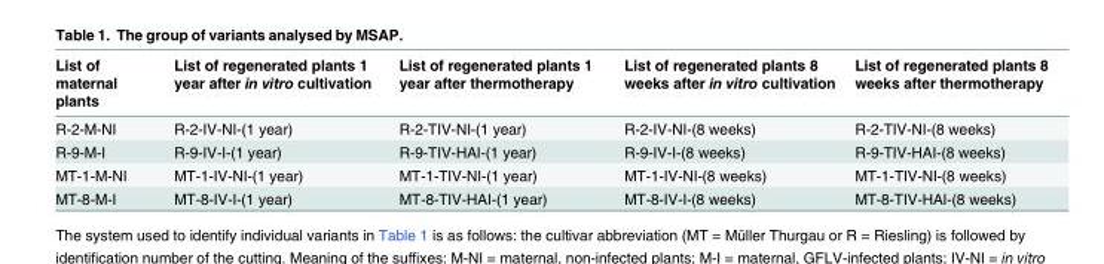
<table><thead><tr><td>List of maternal plants</td><td>List of regenerated plants 1 year after in vitro cultivation</td><td>List of regenerated plants 1 year after thermotherapy</td><td>List of regenerated plants 8 weeks after in vitro cultivation</td><td>List of regenerated plants 8 weeks after thermotherapy</td></tr></thead><tbody><tr><td>R-2-M-NI</td><td>R-2-IV-NI-(1 year)</td><td>R-2-TIV-NI-(1 year)</td><td>R-2-IV-NI-(8 weeks)</td><td>R-2-TIV-NI-(8 weeks)</td></tr><tr><td>R-9-M-I</td><td>R-9-IV-I-(1 year)</td><td>R-9-TIV-HAI-(1 year)</td><td>R-9-IV-I-(8 weeks)</td><td>R-9-TIV-HAI-(8 weeks)</td></tr><tr><td>MT-1-M-NI</td><td>MT-1-IV-NI-(1 year)</td><td>MT-1-TIV-NI-(1 year)</td><td>MT-1-IV-NI-(8 weeks)</td><td>MT-1-TIV-NI-(8 weeks)</td></tr><tr><td>MT-8-M-I</td><td>MT-8-IV-I-(1 year)</td><td>MT-8-TIV-HAI-(1 year)</td><td>MT-8-IV-I-(8 weeks)</td><td>MT-8-TIV-HAI-(8 weeks)</td></tr></tbody></table>